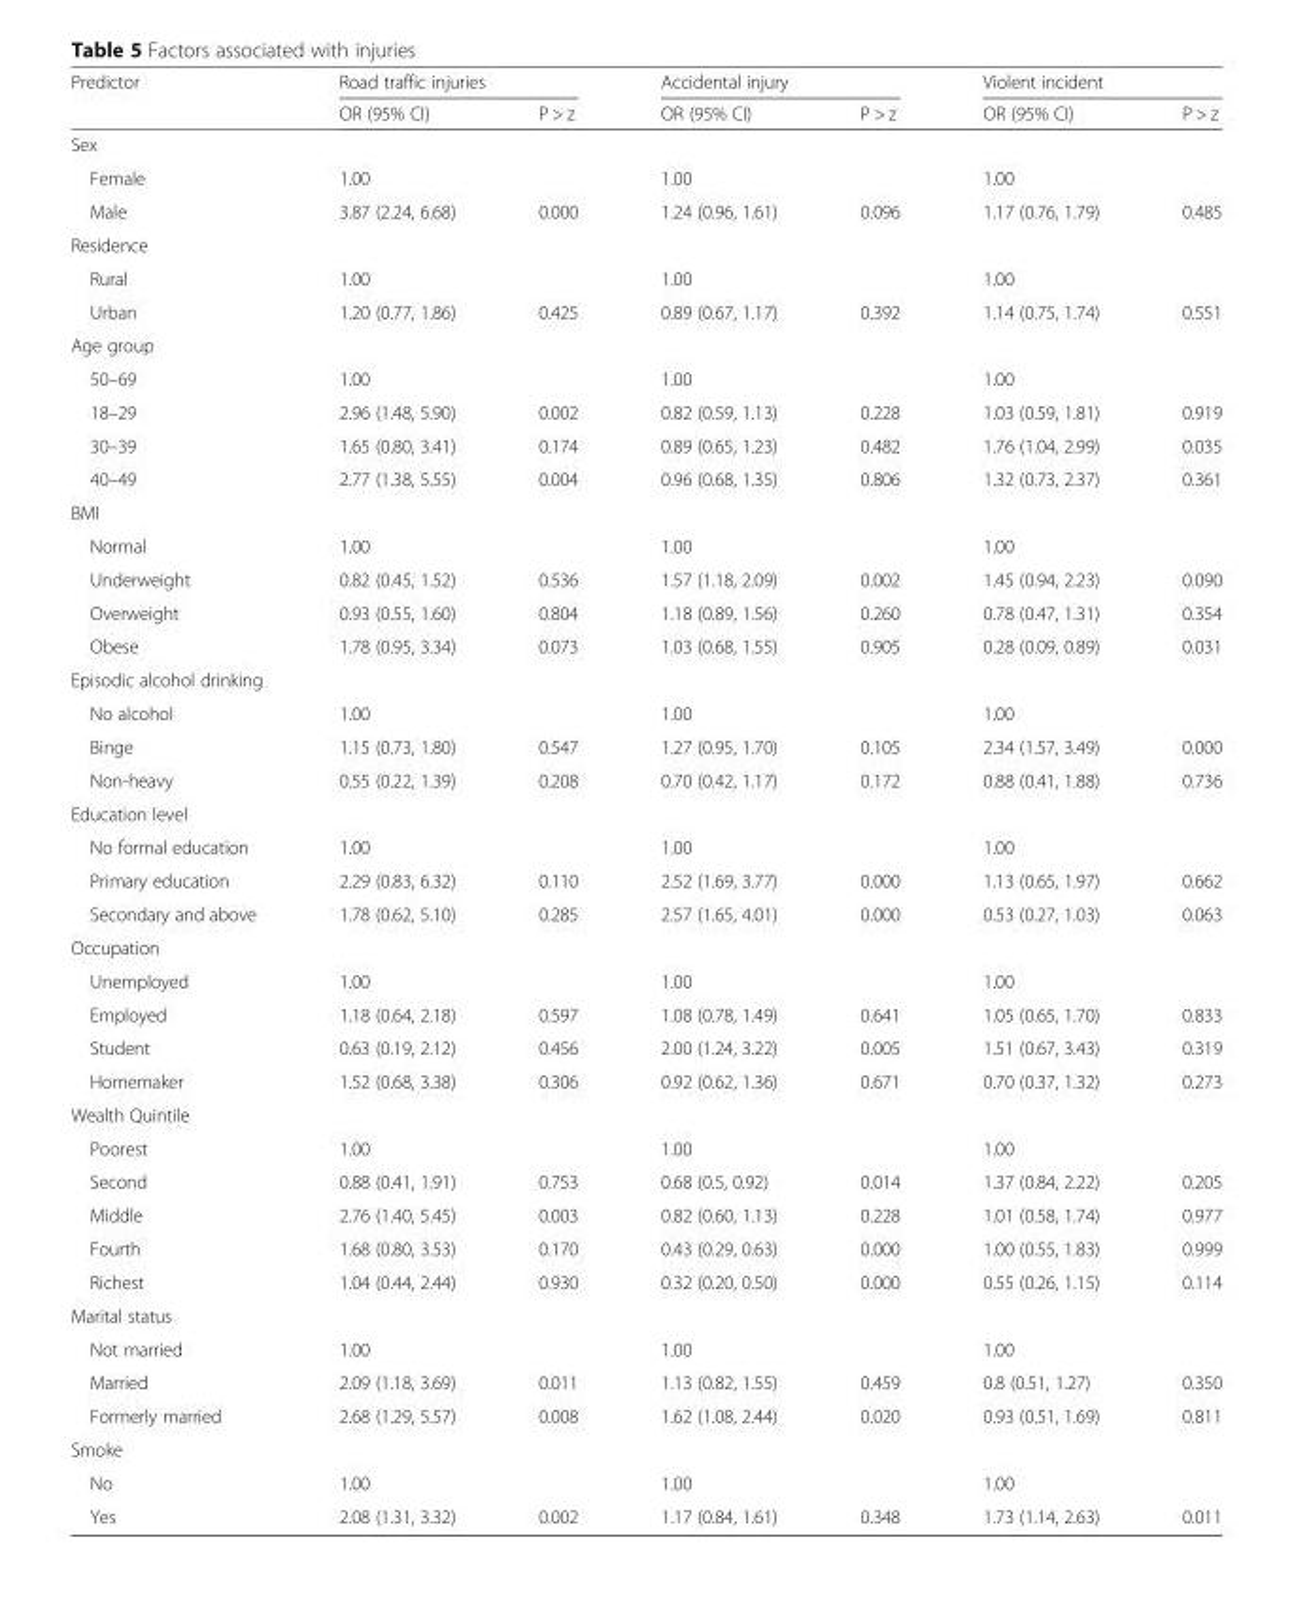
<table><thead><tr><td rowspan="2">Predictor</td><td colspan="2">Road traffic injuries</td><td colspan="2">Accidental injury</td><td colspan="2">Violent incident</td></tr><tr><td>OR (95% CI)</td><td>P &gt; z</td><td>OR (95% CI)</td><td>P &gt; z</td><td>OR (95% CI)</td><td>P &gt; z</td></tr></thead><tbody><tr><td colspan="7">Sex</td></tr><tr><td>Female</td><td>1.00</td><td></td><td>1.00</td><td></td><td>1.00</td><td></td></tr><tr><td>Male</td><td>3.87 (2.24, 6.68)</td><td>0.000</td><td>1.24 (0.96, 1.61)</td><td>0.096</td><td>1.17 (0.76, 1.79)</td><td>0.485</td></tr><tr><td colspan="7">Residence</td></tr><tr><td>Rural</td><td>1.00</td><td></td><td>1.00</td><td></td><td>1.00</td><td></td></tr><tr><td>Urban</td><td>1.20 (0.77, 1.86)</td><td>0.425</td><td>0.89 (0.67, 1.17)</td><td>0.392</td><td>1.14 (0.75, 1.74)</td><td>0.551</td></tr><tr><td colspan="7">Age group</td></tr><tr><td>50–69</td><td>1.00</td><td></td><td>1.00</td><td></td><td>1.00</td><td></td></tr><tr><td>18–29</td><td>2.96 (1.48, 5.90)</td><td>0.002</td><td>0.82 (0.59, 1.13)</td><td>0.228</td><td>1.03 (0.59, 1.81)</td><td>0.919</td></tr><tr><td>30–39</td><td>1.65 (0.80, 3.41)</td><td>0.174</td><td>0.89 (0.65, 1.23)</td><td>0.482</td><td>1.76 (1.04, 2.99)</td><td>0.035</td></tr><tr><td>40–49</td><td>2.77 (1.38, 5.55)</td><td>0.004</td><td>0.96 (0.68, 1.35)</td><td>0.806</td><td>1.32 (0.73, 2.37)</td><td>0.361</td></tr><tr><td colspan="7">BMI</td></tr><tr><td>Normal</td><td>1.00</td><td></td><td>1.00</td><td></td><td>1.00</td><td></td></tr><tr><td>Underweight</td><td>0.82 (0.45, 1.52)</td><td>0.536</td><td>1.57 (1.18, 2.09)</td><td>0.002</td><td>1.45 (0.94, 2.23)</td><td>0.090</td></tr><tr><td>Overweight</td><td>0.93 (0.55, 1.60)</td><td>0.804</td><td>1.18 (0.89, 1.56)</td><td>0.260</td><td>0.78 (0.47, 1.31)</td><td>0.354</td></tr><tr><td>Obese</td><td>1.78 (0.95, 3.34)</td><td>0.073</td><td>1.03 (0.68, 1.55)</td><td>0.905</td><td>0.28 (0.09, 0.89)</td><td>0.031</td></tr><tr><td colspan="7">Episodic alcohol drinking</td></tr><tr><td>No alcohol</td><td>1.00</td><td></td><td>1.00</td><td></td><td>1.00</td><td></td></tr><tr><td>Binge</td><td>1.15 (0.73, 1.80)</td><td>0.547</td><td>1.27 (0.95, 1.70)</td><td>0.105</td><td>2.34 (1.57, 3.49)</td><td>0.000</td></tr><tr><td>Non-heavy</td><td>0.55 (0.22, 1.39)</td><td>0.208</td><td>0.70 (0.42, 1.17)</td><td>0.172</td><td>0.88 (0.41, 1.88)</td><td>0.736</td></tr><tr><td colspan="7">Education level</td></tr><tr><td>No formal education</td><td>1.00</td><td></td><td>1.00</td><td></td><td>1.00</td><td></td></tr><tr><td>Primary education</td><td>2.29 (0.83, 6.32)</td><td>0.110</td><td>2.52 (1.69, 3.77)</td><td>0.000</td><td>1.13 (0.65, 1.97)</td><td>0.662</td></tr><tr><td>Secondary and above</td><td>1.78 (0.62, 5.10)</td><td>0.285</td><td>2.57 (1.65, 4.01)</td><td>0.000</td><td>0.53 (0.27, 1.03)</td><td>0.063</td></tr><tr><td colspan="7">Occupation</td></tr><tr><td>Unemployed</td><td>1.00</td><td></td><td>1.00</td><td></td><td>1.00</td><td></td></tr><tr><td>Employed</td><td>1.18 (0.64, 2.18)</td><td>0.597</td><td>1.08 (0.78, 1.49)</td><td>0.641</td><td>1.05 (0.65, 1.70)</td><td>0.833</td></tr><tr><td>Student</td><td>0.63 (0.19, 2.12)</td><td>0.456</td><td>2.00 (1.24, 3.22)</td><td>0.005</td><td>1.51 (0.67, 3.43)</td><td>0.319</td></tr><tr><td>Homemaker</td><td>1.52 (0.68, 3.38)</td><td>0.306</td><td>0.92 (0.62, 1.36)</td><td>0.671</td><td>0.70 (0.37, 1.32)</td><td>0.273</td></tr><tr><td colspan="7">Wealth Quintile</td></tr><tr><td>Poorest</td><td>1.00</td><td></td><td>1.00</td><td></td><td>1.00</td><td></td></tr><tr><td>Second</td><td>0.88 (0.41, 1.91)</td><td>0.753</td><td>0.68 (0.5, 0.92)</td><td>0.014</td><td>1.37 (0.84, 2.22)</td><td>0.205</td></tr><tr><td>Middle</td><td>2.76 (1.40, 5.45)</td><td>0.003</td><td>0.82 (0.60, 1.13)</td><td>0.228</td><td>1.01 (0.58, 1.74)</td><td>0.977</td></tr><tr><td>Fourth</td><td>1.68 (0.80, 3.53)</td><td>0.170</td><td>0.43 (0.29, 0.63)</td><td>0.000</td><td>1.00 (0.55, 1.83)</td><td>0.999</td></tr><tr><td>Richest</td><td>1.04 (0.44, 2.44)</td><td>0.930</td><td>0.32 (0.20, 0.50)</td><td>0.000</td><td>0.55 (0.26, 1.15)</td><td>0.114</td></tr><tr><td colspan="7">Marital status</td></tr><tr><td>Not married</td><td>1.00</td><td></td><td>1.00</td><td></td><td>1.00</td><td></td></tr><tr><td>Married</td><td>2.09 (1.18, 3.69)</td><td>0.011</td><td>1.13 (0.82, 1.55)</td><td>0.459</td><td>0.8 (0.51, 1.27)</td><td>0.350</td></tr><tr><td>Formerly married</td><td>2.68 (1.29, 5.57)</td><td>0.008</td><td>1.62 (1.08, 2.44)</td><td>0.020</td><td>0.93 (0.51, 1.69)</td><td>0.811</td></tr><tr><td colspan="7">Smoke</td></tr><tr><td>No</td><td>1.00</td><td></td><td>1.00</td><td></td><td>1.00</td><td></td></tr><tr><td>Yes</td><td>2.08 (1.31, 3.32)</td><td>0.002</td><td>1.17 (0.84, 1.61)</td><td>0.348</td><td>1.73 (1.14, 2.63)</td><td>0.011</td></tr></tbody></table>